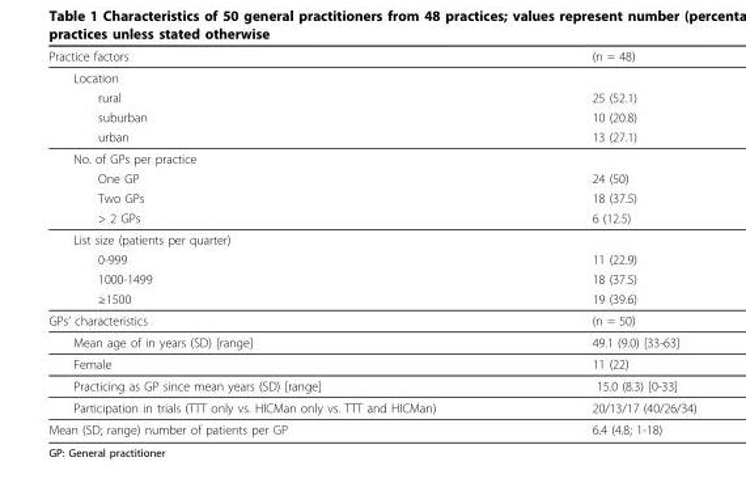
<table><thead><tr><td>Practice factors</td><td>(n = 48)</td></tr></thead><tbody><tr><td colspan="2">Location</td></tr><tr><td>rural</td><td>25 (52.1)</td></tr><tr><td>suburban</td><td>10 (20.8)</td></tr><tr><td>urban</td><td>13 (27.1)</td></tr><tr><td colspan="2">No. of GPs per practice</td></tr><tr><td>One GP</td><td>24 (50)</td></tr><tr><td>Two GPs</td><td>18 (37.5)</td></tr><tr><td>&gt; 2 GPs</td><td>6 (12.5)</td></tr><tr><td colspan="2">List size (patients per quarter)</td></tr><tr><td>0-999</td><td>11 (22.9)</td></tr><tr><td>1000-1499</td><td>18 (37.5)</td></tr><tr><td>≥1500</td><td>19 (39.6)</td></tr><tr><td>GPs’ characteristics</td><td>(n = 50)</td></tr><tr><td>Mean age of in years (SD) [range]</td><td>49.1 (9.0) [33-63]</td></tr><tr><td>Female</td><td>11 (22)</td></tr><tr><td>Practicing as GP since mean years (SD) [range]</td><td>15.0 (8.3) [0-33]</td></tr><tr><td>Participation in trials (TTT only vs. HICMan only vs. TTT and HICMan)</td><td>20/13/17 (40/26/34)</td></tr><tr><td>Mean (SD; range) number of patients per GP</td><td>6.4 (4.8; 1-18)</td></tr></tbody></table>